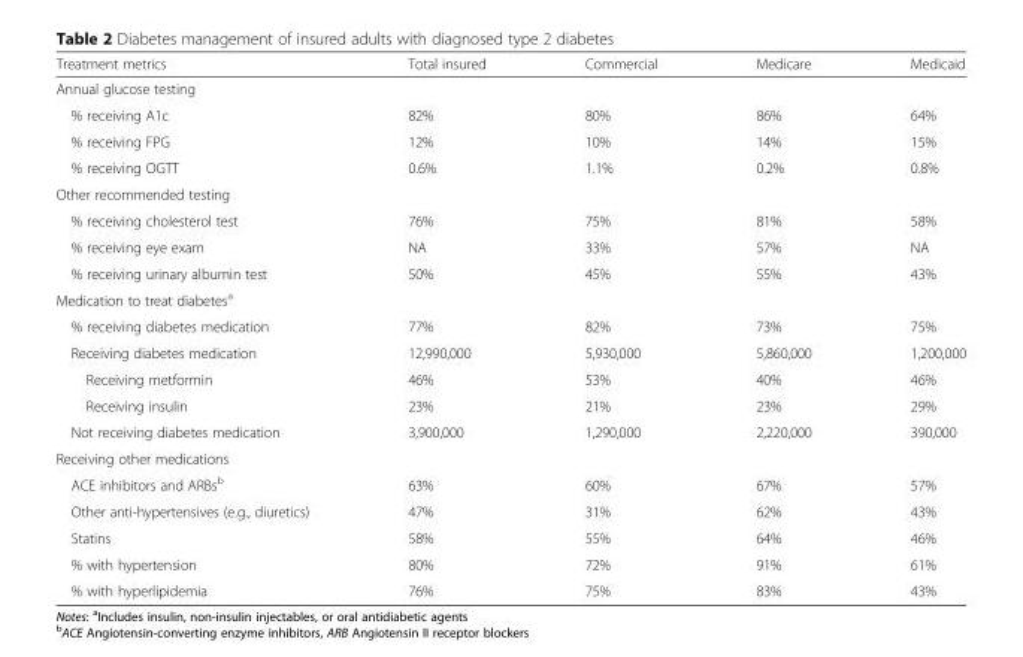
<table><thead><tr><td>Treatment metrics</td><td>Total insured</td><td>Commercial</td><td>Medicare</td><td>Medicaid</td></tr></thead><tbody><tr><td colspan="5">Annual glucose testing</td></tr><tr><td>% receiving A1c</td><td>82%</td><td>80%</td><td>86%</td><td>64%</td></tr><tr><td>% receiving FPG</td><td>12%</td><td>10%</td><td>14%</td><td>15%</td></tr><tr><td>% receiving OGTT</td><td>0.6%</td><td>1.1%</td><td>0.2%</td><td>0.8%</td></tr><tr><td colspan="5">Other recommended testing</td></tr><tr><td>% receiving cholesterol test</td><td>76%</td><td>75%</td><td>81%</td><td>58%</td></tr><tr><td>% receiving eye exam</td><td>NA</td><td>33%</td><td>57%</td><td>NA</td></tr><tr><td>% receiving urinary albumin test</td><td>50%</td><td>45%</td><td>55%</td><td>43%</td></tr><tr><td colspan="5">Medication to treat diabetes<sup>a</sup></td></tr><tr><td>% receiving diabetes medication</td><td>77%</td><td>82%</td><td>73%</td><td>75%</td></tr><tr><td>Receiving diabetes medication</td><td>12,990,000</td><td>5,930,000</td><td>5,860,000</td><td>1,200,000</td></tr><tr><td>Receiving metformin</td><td>46%</td><td>53%</td><td>40%</td><td>46%</td></tr><tr><td>Receiving insulin</td><td>23%</td><td>21%</td><td>23%</td><td>29%</td></tr><tr><td>Not receiving diabetes medication</td><td>3,900,000</td><td>1,290,000</td><td>2,220,000</td><td>390,000</td></tr><tr><td colspan="5">Receiving other medications</td></tr><tr><td>ACE inhibitors and ARBs<sup>b</sup></td><td>63%</td><td>60%</td><td>67%</td><td>57%</td></tr><tr><td>Other anti-hypertensives (e.g., diuretics)</td><td>47%</td><td>31%</td><td>62%</td><td>43%</td></tr><tr><td>Statins</td><td>58%</td><td>55%</td><td>64%</td><td>46%</td></tr><tr><td>% with hypertension</td><td>80%</td><td>72%</td><td>91%</td><td>61%</td></tr><tr><td>% with hyperlipidemia</td><td>76%</td><td>75%</td><td>83%</td><td>43%</td></tr></tbody></table>